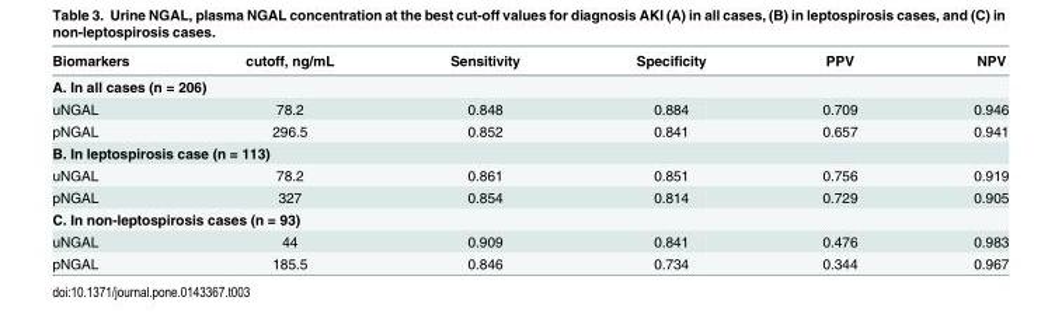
<table><thead><tr><td>Biomarkers</td><td>cutoff, ng/mL</td><td>Sensitivity</td><td>Specificity</td><td>PPV</td><td>NPV</td></tr></thead><tbody><tr><td colspan="6">A. In all cases (n = 206)</td></tr><tr><td>uNGAL</td><td>78.2</td><td>0.848</td><td>0.884</td><td>0.709</td><td>0.946</td></tr><tr><td>pNGAL</td><td>296.5</td><td>0.852</td><td>0.841</td><td>0.657</td><td>0.941</td></tr><tr><td colspan="6">B. In leptospirosis case (n = 113)</td></tr><tr><td>uNGAL</td><td>78.2</td><td>0.861</td><td>0.851</td><td>0.756</td><td>0.919</td></tr><tr><td>pNGAL</td><td>327</td><td>0.854</td><td>0.814</td><td>0.729</td><td>0.905</td></tr><tr><td colspan="6">C. In non-leptospirosis cases (n = 93)</td></tr><tr><td>uNGAL</td><td>44</td><td>0.909</td><td>0.841</td><td>0.476</td><td>0.983</td></tr><tr><td>pNGAL</td><td>185.5</td><td>0.846</td><td>0.734</td><td>0.344</td><td>0.967</td></tr></tbody></table>